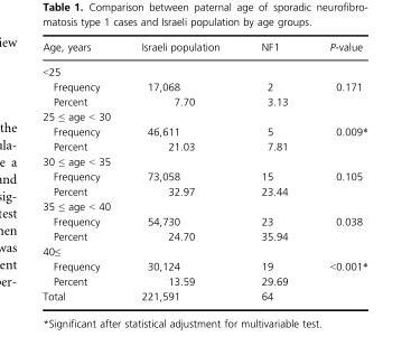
<table><thead><tr><td>Age, years</td><td>Israeli population</td><td>NF1</td><td>P-value</td></tr></thead><tbody><tr><td colspan="4">&lt;25</td></tr><tr><td>Frequency</td><td>17,068</td><td>2</td><td rowspan="2">0.171</td></tr><tr><td>Percent</td><td>7.70</td><td>3.13</td></tr><tr><td colspan="4">25 ≤ age &lt; 30</td></tr><tr><td>Frequency</td><td>46,611</td><td>5</td><td rowspan="2">0.009*</td></tr><tr><td>Percent</td><td>21.03</td><td>7.81</td></tr><tr><td colspan="4">30 ≤ age &lt; 35</td></tr><tr><td>Frequency</td><td>73,058</td><td>15</td><td rowspan="2">0.105</td></tr><tr><td>Percent</td><td>32.97</td><td>23.44</td></tr><tr><td colspan="4">35 ≤ age &lt; 40</td></tr><tr><td>Frequency</td><td>54,730</td><td>23</td><td rowspan="2">0.038</td></tr><tr><td>Percent</td><td>24.70</td><td>35.94</td></tr><tr><td colspan="4">40≤</td></tr><tr><td>Frequency</td><td>30,124</td><td>19</td><td rowspan="2">&lt;0.001*</td></tr><tr><td>Percent</td><td>13.59</td><td>29.69</td></tr><tr><td>Total</td><td>221,591</td><td>64</td><td></td></tr></tbody></table>